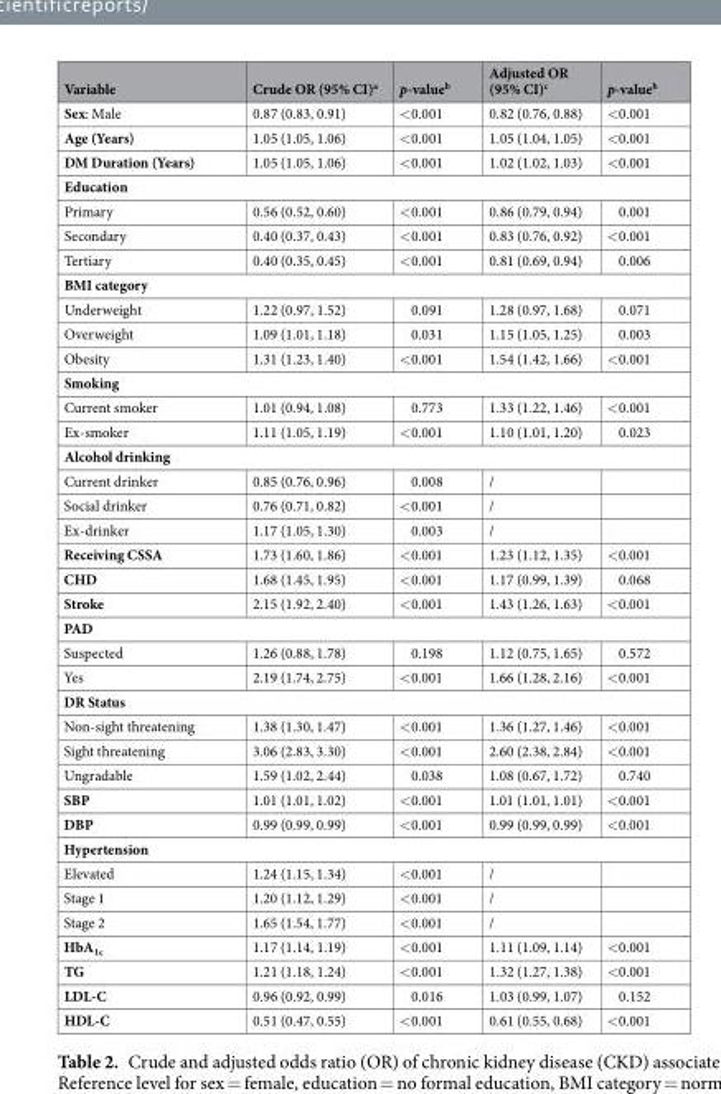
<table><thead><tr><td>Variable</td><td>Crude OR (95% CI)<sup>a</sup></td><td>p-value<sup>b</sup></td><td>Adjusted OR (95% CI)<sup>c</sup></td><td>p-value<sup>b</sup></td></tr></thead><tbody><tr><td>Sex: Male</td><td>0.87 (0.83, 0.91)</td><td>&lt;0.001</td><td>0.82 (0.76, 0.88)</td><td>&lt;0.001</td></tr><tr><td>Age (Years)</td><td>1.05 (1.05, 1.06)</td><td>&lt;0.001</td><td>1.05 (1.04, 1.05)</td><td>&lt;0.001</td></tr><tr><td>DM Duration (Years)</td><td>1.05 (1.05, 1.06)</td><td>&lt;0.001</td><td>1.02 (1.02, 1.03)</td><td>&lt;0.001</td></tr><tr><td colspan="5">Education</td></tr><tr><td>Primary</td><td>0.56 (0.52, 0.60)</td><td>&lt;0.001</td><td>0.86 (0.79, 0.94)</td><td>0.001</td></tr><tr><td>Secondary</td><td>0.40 (0.37, 0.43)</td><td>&lt;0.001</td><td>0.83 (0.76, 0.92)</td><td>&lt;0.001</td></tr><tr><td>Tertiary</td><td>0.40 (0.35, 0.45)</td><td>&lt;0.001</td><td>0.81 (0.69, 0.94)</td><td>0.006</td></tr><tr><td colspan="5">BMI category</td></tr><tr><td>Underweight</td><td>1.22 (0.97, 1.52)</td><td>0.091</td><td>1.28 (0.97, 1.68)</td><td>0.071</td></tr><tr><td>Overweight</td><td>1.09 (1.01, 1.18)</td><td>0.031</td><td>1.15 (1.05, 1.25)</td><td>0.003</td></tr><tr><td>Obesity</td><td>1.31 (1.23, 1.40)</td><td>&lt;0.001</td><td>1.54 (1.42, 1.66)</td><td>&lt;0.001</td></tr><tr><td colspan="5">Smoking</td></tr><tr><td>Current smoker</td><td>1.01 (0.94, 1.08)</td><td>0.773</td><td>1.33 (1.22, 1.46)</td><td>&lt;0.001</td></tr><tr><td>Ex-smoker</td><td>1.11 (1.05, 1.19)</td><td>&lt;0.001</td><td>1.10 (1.01, 1.20)</td><td>0.023</td></tr><tr><td colspan="5">Alcohol drinking</td></tr><tr><td>Current drinker</td><td>0.85 (0.76, 0.96)</td><td>0.008</td><td>/</td><td></td></tr><tr><td>Social drinker</td><td>0.76 (0.71, 0.82)</td><td>&lt;0.001</td><td>/</td><td></td></tr><tr><td>Ex-drinker</td><td>1.17 (1.05, 1.30)</td><td>0.003</td><td>/</td><td></td></tr><tr><td>Receiving CSSA</td><td>1.73 (1.60, 1.86)</td><td>&lt;0.001</td><td>1.23 (1.12, 1.35)</td><td>&lt;0.001</td></tr><tr><td>CHD</td><td>1.68 (1.45, 1.95)</td><td>&lt;0.001</td><td>1.17 (0.99, 1.39)</td><td>0.068</td></tr><tr><td>Stroke</td><td>2.15 (1.92, 2.40)</td><td>&lt;0.001</td><td>1.43 (1.26, 1.63)</td><td>&lt;0.001</td></tr><tr><td colspan="5">PAD</td></tr><tr><td>Suspected</td><td>1.26 (0.88, 1.78)</td><td>0.198</td><td>1.12 (0.75, 1.65)</td><td>0.572</td></tr><tr><td>Yes</td><td>2.19 (1.74, 2.75)</td><td>&lt;0.001</td><td>1.66 (1.28, 2.16)</td><td>&lt;0.001</td></tr><tr><td colspan="5">DR Status</td></tr><tr><td>Non-sight threatening</td><td>1.38 (1.30, 1.47)</td><td>&lt;0.001</td><td>1.36 (1.27, 1.46)</td><td>&lt;0.001</td></tr><tr><td>Sight threatening</td><td>3.06 (2.83, 3.30)</td><td>&lt;0.001</td><td>2.60 (2.38, 2.84)</td><td>&lt;0.001</td></tr><tr><td>Ungradable</td><td>1.59 (1.02, 2.44)</td><td>0.038</td><td>1.08 (0.67, 1.72)</td><td>0.740</td></tr><tr><td>SBP</td><td>1.01 (1.01, 1.02)</td><td>&lt;0.001</td><td>1.01 (1.01, 1.01)</td><td>&lt;0.001</td></tr><tr><td>DBP</td><td>0.99 (0.99, 0.99)</td><td>&lt;0.001</td><td>0.99 (0.99, 0.99)</td><td>&lt;0.001</td></tr><tr><td colspan="5">Hypertension</td></tr><tr><td>Elevated</td><td>1.24 (1.15, 1.34)</td><td>&lt;0.001</td><td>/</td><td></td></tr><tr><td>Stage 1</td><td>1.20 (1.12, 1.29)</td><td>&lt;0.001</td><td>/</td><td></td></tr><tr><td>Stage 2</td><td>1.65 (1.54, 1.77)</td><td>&lt;0.001</td><td>/</td><td></td></tr><tr><td>HbA<sub>1c</sub></td><td>1.17 (1.14, 1.19)</td><td>&lt;0.001</td><td>1.11 (1.09, 1.14)</td><td>&lt;0.001</td></tr><tr><td>TG</td><td>1.21 (1.18, 1.24)</td><td>&lt;0.001</td><td>1.32 (1.27, 1.38)</td><td>&lt;0.001</td></tr><tr><td>LDL-C</td><td>0.96 (0.92, 0.99)</td><td>0.016</td><td>1.03 (0.99, 1.07)</td><td>0.152</td></tr><tr><td>HDL-C</td><td>0.51 (0.47, 0.55)</td><td>&lt;0.001</td><td>0.61 (0.55, 0.68)</td><td>&lt;0.001</td></tr></tbody></table>